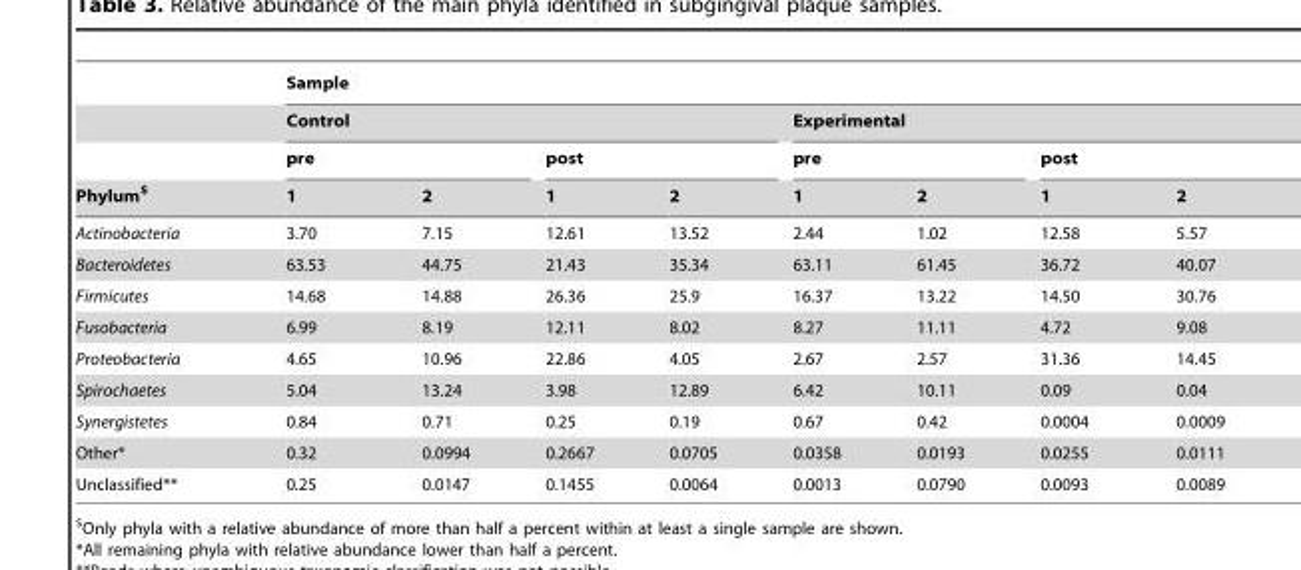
<table><thead><tr><td rowspan="4">Phylum$</td><td colspan="8">Sample</td></tr><tr><td colspan="4">Control</td><td colspan="4">Experimental</td></tr><tr><td colspan="2">pre</td><td colspan="2">post</td><td colspan="2">pre</td><td colspan="2">post</td></tr><tr><td>1</td><td>2</td><td>1</td><td>2</td><td>1</td><td>2</td><td>1</td><td>2</td></tr></thead><tbody><tr><td>Actinobacteria</td><td>3.70</td><td>7.15</td><td>12.61</td><td>13.52</td><td>2.44</td><td>1.02</td><td>12.58</td><td>5.57</td></tr><tr><td>Bacteroidetes</td><td>63.53</td><td>44.75</td><td>21.43</td><td>35.34</td><td>63.11</td><td>61.45</td><td>36.72</td><td>40.07</td></tr><tr><td>Firmicutes</td><td>14.68</td><td>14.88</td><td>26.36</td><td>25.9</td><td>16.37</td><td>13.22</td><td>14.50</td><td>30.76</td></tr><tr><td>Fusobacteria</td><td>6.99</td><td>8.19</td><td>12.11</td><td>8.02</td><td>8.27</td><td>11.11</td><td>4.72</td><td>9.08</td></tr><tr><td>Proteobacteria</td><td>4.65</td><td>10.96</td><td>22.86</td><td>4.05</td><td>2.67</td><td>2.57</td><td>31.36</td><td>14.45</td></tr><tr><td>Spirochaetes</td><td>5.04</td><td>13.24</td><td>3.98</td><td>12.89</td><td>6.42</td><td>10.11</td><td>0.09</td><td>0.04</td></tr><tr><td>Synergistetes</td><td>0.84</td><td>0.71</td><td>0.25</td><td>0.19</td><td>0.67</td><td>0.42</td><td>0.0004</td><td>0.0009</td></tr><tr><td>Other*</td><td>0.32</td><td>0.0994</td><td>0.2667</td><td>0.0705</td><td>0.0358</td><td>0.0193</td><td>0.0255</td><td>0.0111</td></tr><tr><td>Unclassified**</td><td>0.25</td><td>0.0147</td><td>0.1455</td><td>0.0064</td><td>0.0013</td><td>0.0790</td><td>0.0093</td><td>0.0089</td></tr></tbody></table>